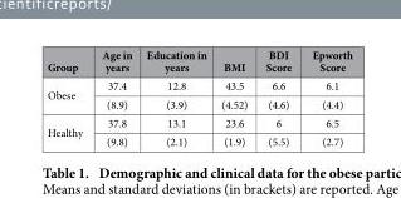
<table><thead><tr><td>Group</td><td>Age in years</td><td>Education in years</td><td>BMI</td><td>BDI Score</td><td>Epworth Score</td></tr></thead><tbody><tr><td rowspan="2">Obese</td><td>37.4</td><td>12.8</td><td>43.5</td><td>6.6</td><td>6.1</td></tr><tr><td>(8.9)</td><td>(3.9)</td><td>(4.52)</td><td>(4.6)</td><td>(4.4)</td></tr><tr><td rowspan="2">Healthy</td><td>37.8</td><td>13.1</td><td>23.6</td><td>6</td><td>6.5</td></tr><tr><td>(9.8)</td><td>(2.1)</td><td>(1.9)</td><td>(5.5)</td><td>(2.7)</td></tr></tbody></table>